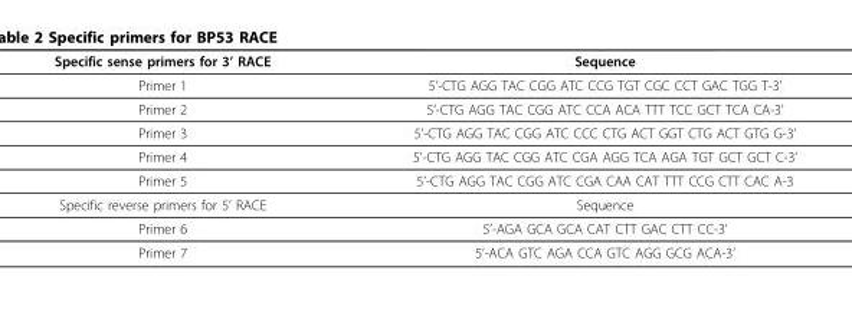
<table><thead><tr><td>Specific sense primers for 3’ RACE</td><td>Sequence</td></tr></thead><tbody><tr><td>Primer 1</td><td>5’-CTG AGG TAC CGG ATC CCG TGT CGC CCT GAC TGG T-3’</td></tr><tr><td>Primer 2</td><td>5’-CTG AGG TAC CGG ATC CCA ACA TTT TCC GCT TCA CA-3’</td></tr><tr><td>Primer 3</td><td>5’-CTG AGG TAC CGG ATC CCC CTG ACT GGT CTG ACT GTG G-3’</td></tr><tr><td>Primer 4</td><td>5’-CTG AGG TAC CGG ATC CGA AGG TCA AGA TGT GCT GCT C-3’</td></tr><tr><td>Primer 5</td><td>5’-CTG AGG TAC CGG ATC CGA CAA CAT TTT CCG CTT CAC A-3</td></tr><tr><td>Specific reverse primers for 5’ RACE</td><td>Sequence</td></tr><tr><td>Primer 6</td><td>5’-AGA GCA GCA CAT CTT GAC CTT CC-3’</td></tr><tr><td>Primer 7</td><td>5’-ACA GTC AGA CCA GTC AGG GCG ACA-3’</td></tr></tbody></table>